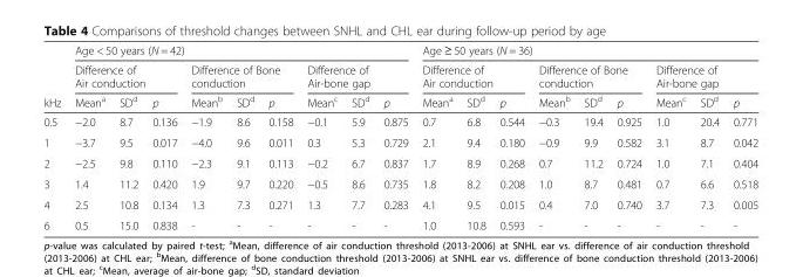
<table><thead><tr><td rowspan="3">kHz</td><td colspan="9">Age &lt; 50 years (N = 42)</td><td colspan="9">Age ≥ 50 years (N = 36)</td></tr><tr><td colspan="3">Difference of Air conduction</td><td colspan="3">Difference of Bone conduction</td><td colspan="3">Difference of Air-bone gap</td><td colspan="3">Difference of Air conduction</td><td colspan="3">Difference of Bone conduction</td><td colspan="3">Difference of Air-bone gap</td></tr><tr><td>Mean<sup>a</sup></td><td>SD<sup>d</sup></td><td>p</td><td>Mean<sup>b</sup></td><td>SD<sup>d</sup></td><td>p</td><td>Mean<sup>c</sup></td><td>SD<sup>d</sup></td><td>p</td><td>Mean<sup>a</sup></td><td>SD<sup>d</sup></td><td>p</td><td>Mean<sup>b</sup></td><td>SD<sup>d</sup></td><td>p</td><td>Mean<sup>c</sup></td><td>SD<sup>d</sup></td><td>p</td></tr></thead><tbody><tr><td>0.5</td><td>−2.0</td><td>8.7</td><td>0.136</td><td>−1.9</td><td>8.6</td><td>0.158</td><td>−0.1</td><td>5.9</td><td>0.875</td><td>0.7</td><td>6.8</td><td>0.544</td><td>−0.3</td><td>19.4</td><td>0.925</td><td>1.0</td><td>20.4</td><td>0.771</td></tr><tr><td>1</td><td>−3.7</td><td>9.5</td><td>0.017</td><td>−4.0</td><td>9.6</td><td>0.011</td><td>0.3</td><td>5.3</td><td>0.729</td><td>2.1</td><td>9.4</td><td>0.180</td><td>−0.9</td><td>9.9</td><td>0.582</td><td>3.1</td><td>8.7</td><td>0.042</td></tr><tr><td>2</td><td>−2.5</td><td>9.8</td><td>0.110</td><td>−2.3</td><td>9.1</td><td>0.113</td><td>−0.2</td><td>6.7</td><td>0.837</td><td>1.7</td><td>8.9</td><td>0.268</td><td>0.7</td><td>11.2</td><td>0.724</td><td>1.0</td><td>7.1</td><td>0.404</td></tr><tr><td>3</td><td>1.4</td><td>11.2</td><td>0.420</td><td>1.9</td><td>9.7</td><td>0.220</td><td>−0.5</td><td>8.6</td><td>0.735</td><td>1.8</td><td>8.2</td><td>0.208</td><td>1.0</td><td>8.7</td><td>0.481</td><td>0.7</td><td>6.6</td><td>0.518</td></tr><tr><td>4</td><td>2.5</td><td>10.8</td><td>0.134</td><td>1.3</td><td>7.3</td><td>0.271</td><td>1.3</td><td>7.7</td><td>0.283</td><td>4.1</td><td>9.5</td><td>0.015</td><td>0.4</td><td>7.0</td><td>0.740</td><td>3.7</td><td>7.3</td><td>0.005</td></tr><tr><td>6</td><td>0.5</td><td>15.0</td><td>0.838</td><td>-</td><td>-</td><td>-</td><td>-</td><td>-</td><td>-</td><td>1.0</td><td>10.8</td><td>0.593</td><td>-</td><td>-</td><td>-</td><td>-</td><td>-</td><td>-</td></tr></tbody></table>